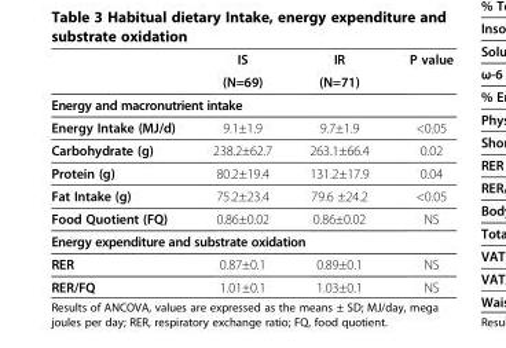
<table><thead><tr><td rowspan="2"></td><td rowspan="2">IS (N=69)</td><td rowspan="2">IR (N=71)</td><td rowspan="2">P value</td></tr><tr></tr></thead><tbody><tr><td colspan="4">Energy and macronutrient intake</td></tr><tr><td>Energy Intake (MJ/d)</td><td>9.1±1.9</td><td>9.7±1.9</td><td>&lt;0.05</td></tr><tr><td>Carbohydrate (g)</td><td>238.2±62.7</td><td>263.1±66.4</td><td>0.02</td></tr><tr><td>Protein (g)</td><td>80.2±19.4</td><td>131.2±17.9</td><td>0.04</td></tr><tr><td>Fat Intake (g)</td><td>75.2±23.4</td><td>79.6 ±24.2</td><td>&lt;0.05</td></tr><tr><td>Food Quotient (FQ)</td><td>0.86±0.02</td><td>0.86±0.02</td><td>NS</td></tr><tr><td colspan="4">Energy expenditure and substrate oxidation</td></tr><tr><td>RER</td><td>0.87±0.1</td><td>0.89±0.1</td><td>NS</td></tr><tr><td>RER/FQ</td><td>1.01±0.1</td><td>1.03±0.1</td><td>NS</td></tr></tbody></table>